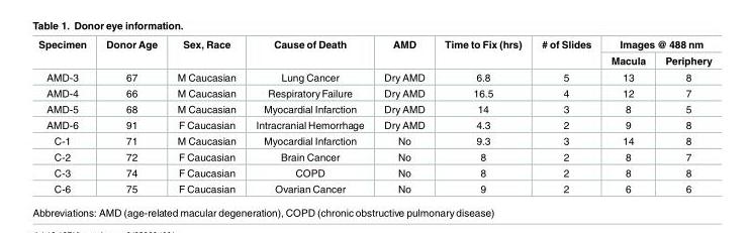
<table><thead><tr><td rowspan="2">Specimen</td><td rowspan="2">Donor Age</td><td rowspan="2">Sex, Race</td><td rowspan="2">Cause of Death</td><td rowspan="2">AMD</td><td rowspan="2">Time to Fix (hrs)</td><td rowspan="2"># of Slides</td><td colspan="2">Images @ 488 nm</td></tr><tr><td>Macula</td><td>Periphery</td></tr></thead><tbody><tr><td>AMD-3</td><td>67</td><td>M Caucasian</td><td>Lung Cancer</td><td>Dry AMD</td><td>6.8</td><td>5</td><td>13</td><td>8</td></tr><tr><td>AMD-4</td><td>66</td><td>M Caucasian</td><td>RespiratoryFailure</td><td>Dry AMD</td><td>16.5</td><td>4</td><td>12</td><td>7</td></tr><tr><td>AMD-5</td><td>68</td><td>M Caucasian</td><td>Myocardial Infarction</td><td>Dry AMD</td><td>14</td><td>3</td><td>8</td><td>5</td></tr><tr><td>AMD-6</td><td>91</td><td>F Caucasian</td><td>Intracranial Hemorrhage</td><td>Dry AMD</td><td>4.3</td><td>2</td><td>9</td><td>8</td></tr><tr><td>C-1</td><td>71</td><td>M Caucasian</td><td>Myocardial Infarction</td><td>No</td><td>9.3</td><td>3</td><td>14</td><td>8</td></tr><tr><td>C-2</td><td>72</td><td>F Caucasian</td><td>Brain Cancer</td><td>No</td><td>8</td><td>2</td><td>8</td><td>7</td></tr><tr><td>C-3</td><td>74</td><td>F Caucasian</td><td>COPD</td><td>No</td><td>8</td><td>2</td><td>8</td><td>8</td></tr><tr><td>C-6</td><td>75</td><td>F Caucasian</td><td>Ovarian Cancer</td><td>No</td><td>9</td><td>2</td><td>6</td><td>6</td></tr></tbody></table>